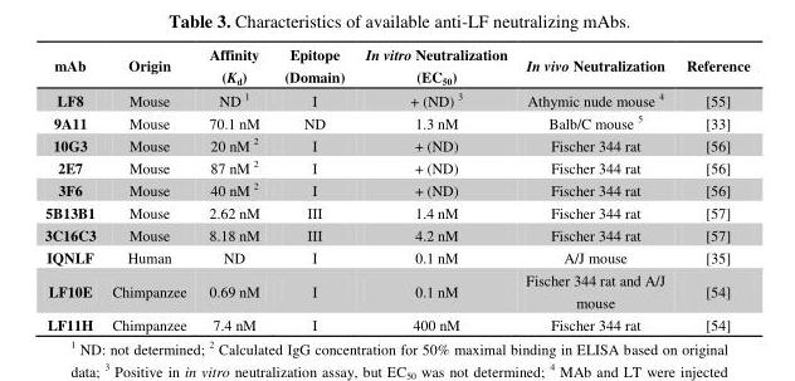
<table><thead><tr><td>mAb</td><td>Origin</td><td>Affinity (K<sub>d</sub>)</td><td>Epitope (Domain)</td><td>In vitro Neutralization (EC<sub>50</sub>)</td><td>In vivo Neutralization</td><td>Reference</td></tr></thead><tbody><tr><td>LF8</td><td>Mouse</td><td>ND <sup>1</sup></td><td>I</td><td>+ (ND) <sup>3</sup></td><td>Athymic nude mouse <sup>4</sup></td><td>[55]</td></tr><tr><td>9A11</td><td>Mouse</td><td>70.1 nM</td><td>ND</td><td>1.3 nM</td><td>Balb/C mouse <sup>5</sup></td><td>[33]</td></tr><tr><td>10G3</td><td>Mouse</td><td>20 nM <sup>2</sup></td><td>I</td><td>+ (ND)</td><td>Fischer 344 rat</td><td>[56]</td></tr><tr><td>2E7</td><td>Mouse</td><td>87 nM <sup>2</sup></td><td>I</td><td>+ (ND)</td><td>Fischer 344 rat</td><td>[56]</td></tr><tr><td>3F6</td><td>Mouse</td><td>40 nM <sup>2</sup></td><td>I</td><td>+ (ND)</td><td>Fischer 344 rat</td><td>[56]</td></tr><tr><td>5B13B1</td><td>Mouse</td><td>2.62 nM</td><td>III</td><td>1.4 nM</td><td>Fischer 344 rat</td><td>[57]</td></tr><tr><td>3C16C3</td><td>Mouse</td><td>8.18 nM</td><td>III</td><td>4.2 nM</td><td>Fischer 344 rat</td><td>[57]</td></tr><tr><td>IQNLF</td><td>Human</td><td>ND</td><td>I</td><td>0.1 nM</td><td>A/J mouse</td><td>[35]</td></tr><tr><td>LF10E</td><td>Chimpanzee</td><td>0.69 nM</td><td>I</td><td>0.1 nM</td><td>Fischer 344 rat and A/J mouse</td><td>[54]</td></tr><tr><td>LF11H</td><td>Chimpanzee</td><td>7.4 nM</td><td>I</td><td>400 nM</td><td>Fischer 344 rat</td><td>[54]</td></tr></tbody></table>